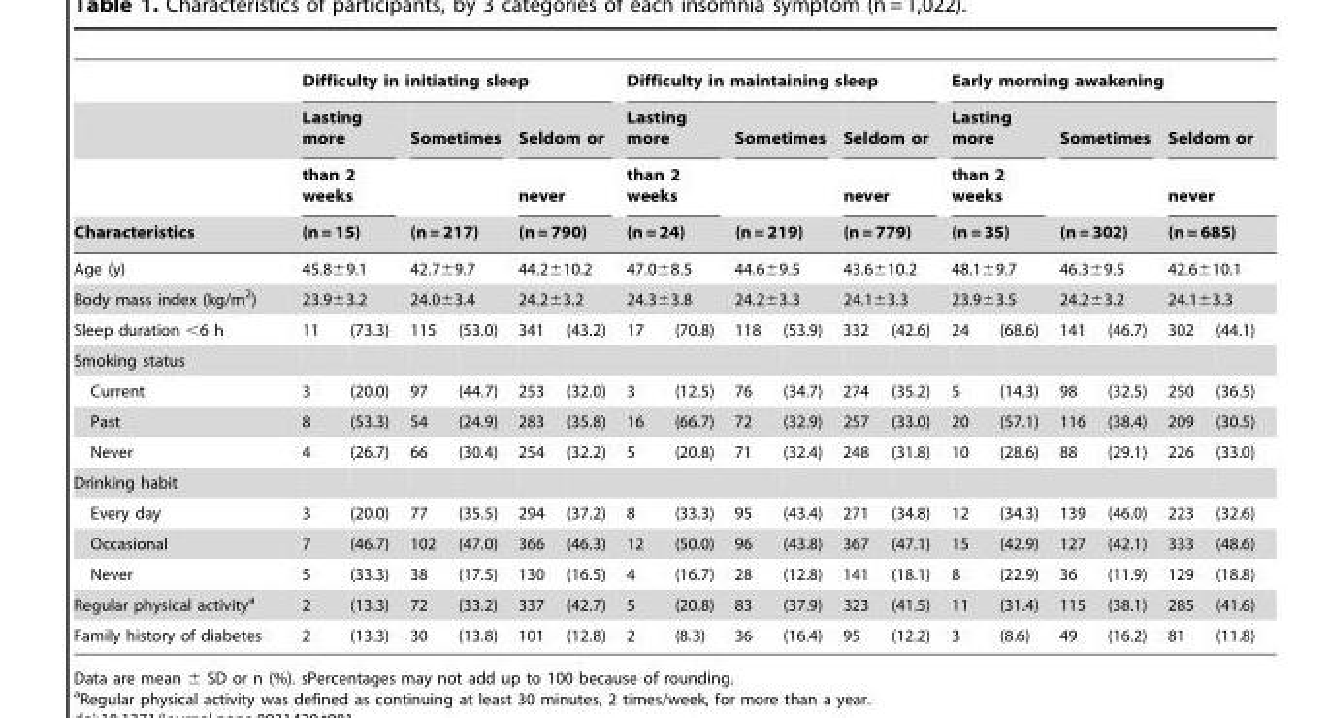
<table><thead><tr><td rowspan="7">Characteristics Age (y) Body mass index (kg/m<sup>2</sup>) Sleep duration &lt;6 h</td><td colspan="6">Difficulty in initiating sleep</td><td colspan="6">Difficulty in maintaining sleep</td><td colspan="6">Early morning awakening</td></tr><tr><td rowspan="5" colspan="2">Lasting more than 2 weeks (n = 15) 45.8±9.1 23.9±3.2</td><td colspan="2">Sometimes</td><td rowspan="5" colspan="2">Seldom or never (n = 790) 44.2±10.2 24.2±3.2</td><td rowspan="5" colspan="2">Lasting more than 2 weeks (n = 24) 47.0±8.5 24.3±3.8</td><td colspan="2">Sometimes</td><td rowspan="5" colspan="2">Seldom or never (n = 779) 43.6±10.2 24.1±3.3</td><td rowspan="5" colspan="2">Lasting more than 2 weeks (n = 35) 48.1±9.7 23.9±3.5</td><td colspan="2">Sometimes</td><td rowspan="5" colspan="2">Seldom or never (n = 685) 42.6±10.1 24.1±3.3</td></tr><tr><td></td><td></td><td></td><td></td><td></td><td></td></tr><tr><td rowspan="3" colspan="2">(n = 217) 42.7±9.7 24.0±3.4</td><td rowspan="3" colspan="2">(n = 219) 44.6±9.5 24.2±3.3</td><td rowspan="3" colspan="2">(n = 302) 46.3±9.5 24.2±3.2</td></tr><tr></tr><tr></tr><tr><td>11</td><td>(73.3)</td><td>115</td><td>(53.0)</td><td>341</td><td>(43.2)</td><td>17</td><td>(70.8)</td><td>118</td><td>(53.9)</td><td>332</td><td>(42.6)</td><td>24</td><td>(68.6)</td><td>141</td><td>(46.7)</td><td>302</td><td>(44.1)</td></tr></thead><tbody><tr><td colspan="19">Smoking status</td></tr><tr><td>Current</td><td>3</td><td>(20.0)</td><td>97</td><td>(44.7)</td><td>253</td><td>(32.0)</td><td>3</td><td>(12.5)</td><td>76</td><td>(34.7)</td><td>274</td><td>(35.2)</td><td>5</td><td>(14.3)</td><td>98</td><td>(32.5)</td><td>250</td><td>(36.5)</td></tr><tr><td>Past</td><td>8</td><td>(53.3)</td><td>54</td><td>(24.9)</td><td>283</td><td>(35.8)</td><td>16</td><td>(66.7)</td><td>72</td><td>(32.9)</td><td>257</td><td>(33.0)</td><td>20</td><td>(57.1)</td><td>116</td><td>(38.4)</td><td>209</td><td>(30.5)</td></tr><tr><td>Never</td><td>4</td><td>(26.7)</td><td>66</td><td>(30.4)</td><td>254</td><td>(32.2)</td><td>5</td><td>(20.8)</td><td>71</td><td>(32.4)</td><td>248</td><td>(31.8)</td><td>10</td><td>(28.6)</td><td>88</td><td>(29.1)</td><td>226</td><td>(33.0)</td></tr><tr><td colspan="19">Drinking habit</td></tr><tr><td>Every day</td><td>3</td><td>(20.0)</td><td>77</td><td>(35.5)</td><td>294</td><td>(37.2)</td><td>8</td><td>(33.3)</td><td>95</td><td>(43.4)</td><td>271</td><td>(34.8)</td><td>12</td><td>(34.3)</td><td>139</td><td>(46.0)</td><td>223</td><td>(32.6)</td></tr><tr><td>Occasional</td><td>7</td><td>(46.7)</td><td>102</td><td>(47.0)</td><td>366</td><td>(46.3)</td><td>12</td><td>(50.0)</td><td>96</td><td>(43.8)</td><td>367</td><td>(47.1)</td><td>15</td><td>(42.9)</td><td>127</td><td>(42.1)</td><td>333</td><td>(48.6)</td></tr><tr><td>Never</td><td>5</td><td>(33.3)</td><td>38</td><td>(17.5)</td><td>130</td><td>(16.5)</td><td>4</td><td>(16.7)</td><td>28</td><td>(12.8)</td><td>141</td><td>(18.1)</td><td>8</td><td>(22.9)</td><td>36</td><td>(11.9)</td><td>129</td><td>(18.8)</td></tr><tr><td>Regular physical activity<sup>a</sup></td><td>2</td><td>(13.3)</td><td>72</td><td>(33.2)</td><td>337</td><td>(42.7)</td><td>5</td><td>(20.8)</td><td>83</td><td>(37.9)</td><td>323</td><td>(41.5)</td><td>11</td><td>(31.4)</td><td>115</td><td>(38.1)</td><td>285</td><td>(41.6)</td></tr><tr><td>Family history of diabetes</td><td>2</td><td>(13.3)</td><td>30</td><td>(13.8)</td><td>101</td><td>(12.8)</td><td>2</td><td>(8.3)</td><td>36</td><td>(16.4)</td><td>95</td><td>(12.2)</td><td>3</td><td>(8.6)</td><td>49</td><td>(16.2)</td><td>81</td><td>(11.8)</td></tr></tbody></table>